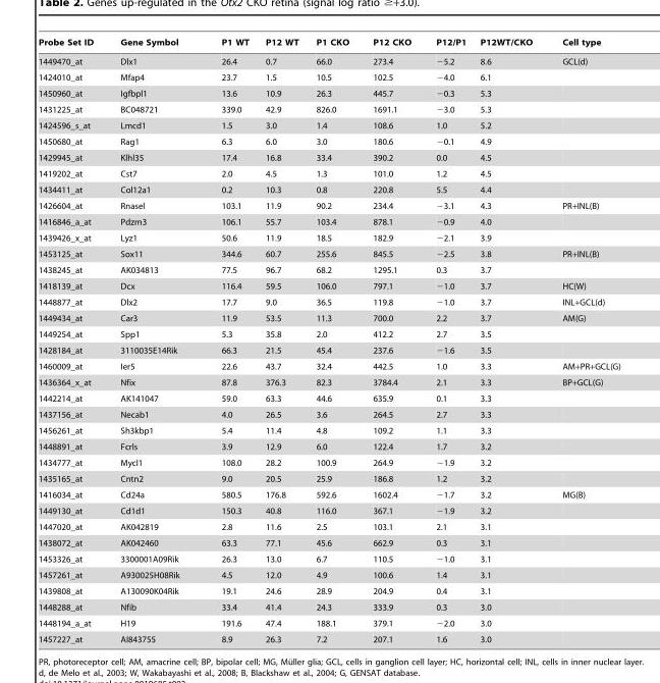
<table><thead><tr><td>Probe Set ID</td><td>Gene Symbol</td><td>P1 WT</td><td>P12 WT</td><td>P1 CKO</td><td>P12 CKO</td><td>P12/P1</td><td>P12WT/CKO</td><td>Cell type</td></tr></thead><tbody><tr><td>1449470_at</td><td>Dlx1</td><td>26.4</td><td>0.7</td><td>66.0</td><td>273.4</td><td>−5.2</td><td>8.6</td><td>GCL(d)</td></tr><tr><td>1424010_at</td><td>Mfap4</td><td>23.7</td><td>1.5</td><td>10.5</td><td>102.5</td><td>−4.0</td><td>6.1</td><td></td></tr><tr><td>1450960_at</td><td>Igfbpl1</td><td>13.6</td><td>10.9</td><td>26.3</td><td>445.7</td><td>−0.3</td><td>5.3</td><td></td></tr><tr><td>1431225_at</td><td>BC048721</td><td>339.0</td><td>42.9</td><td>826.0</td><td>1691.1</td><td>−3.0</td><td>5.3</td><td></td></tr><tr><td>1424596_s_at</td><td>Lmcd1</td><td>1.5</td><td>3.0</td><td>1.4</td><td>108.6</td><td>1.0</td><td>5.2</td><td></td></tr><tr><td>1450680_at</td><td>Rag1</td><td>6.3</td><td>6.0</td><td>3.0</td><td>180.6</td><td>−0.1</td><td>4.9</td><td></td></tr><tr><td>1429945_at</td><td>Klhl35</td><td>17.4</td><td>16.8</td><td>33.4</td><td>390.2</td><td>0.0</td><td>4.5</td><td></td></tr><tr><td>1419202_at</td><td>Cst7</td><td>2.0</td><td>4.5</td><td>1.3</td><td>101.0</td><td>1.2</td><td>4.5</td><td></td></tr><tr><td>1434411_at</td><td>Col12a1</td><td>0.2</td><td>10.3</td><td>0.8</td><td>220.8</td><td>5.5</td><td>4.4</td><td></td></tr><tr><td>1426604_at</td><td>Rnasel</td><td>103.1</td><td>11.9</td><td>90.2</td><td>234.4</td><td>−3.1</td><td>4.3</td><td>PR+INL(B)</td></tr><tr><td>1416846_a_at</td><td>Pdzrn3</td><td>106.1</td><td>55.7</td><td>103.4</td><td>878.1</td><td>−0.9</td><td>4.0</td><td></td></tr><tr><td>1439426_x_at</td><td>Lyz1</td><td>50.6</td><td>11.9</td><td>18.5</td><td>182.9</td><td>−2.1</td><td>3.9</td><td></td></tr><tr><td>1453125_at</td><td>Sox11</td><td>344.6</td><td>60.7</td><td>255.6</td><td>845.5</td><td>−2.5</td><td>3.8</td><td>PR+INL(B)</td></tr><tr><td>1438245_at</td><td>AK034813</td><td>77.5</td><td>96.7</td><td>68.2</td><td>1295.1</td><td>0.3</td><td>3.7</td><td></td></tr><tr><td>1418139_at</td><td>Dcx</td><td>116.4</td><td>59.5</td><td>106.0</td><td>797.1</td><td>−1.0</td><td>3.7</td><td>HC(W)</td></tr><tr><td>1448877_at</td><td>Dlx2</td><td>17.7</td><td>9.0</td><td>36.5</td><td>119.8</td><td>−1.0</td><td>3.7</td><td>INL+GCL(d)</td></tr><tr><td>1449434_at</td><td>Car3</td><td>11.9</td><td>53.5</td><td>11.3</td><td>700.0</td><td>2.2</td><td>3.7</td><td>AM(G)</td></tr><tr><td>1449254_at</td><td>Spp1</td><td>5.3</td><td>35.8</td><td>2.0</td><td>412.2</td><td>2.7</td><td>3.5</td><td></td></tr><tr><td>1428184_at</td><td>3110035E14Rik</td><td>66.3</td><td>21.5</td><td>45.4</td><td>237.6</td><td>−1.6</td><td>3.5</td><td></td></tr><tr><td>1460009_at</td><td>Ier5</td><td>22.6</td><td>43.7</td><td>32.4</td><td>442.5</td><td>1.0</td><td>3.3</td><td>AM+PR+GCL(G)</td></tr><tr><td>1436364_x_at</td><td>Nfix</td><td>87.8</td><td>376.3</td><td>82.3</td><td>3784.4</td><td>2.1</td><td>3.3</td><td>BP+GCL(G)</td></tr><tr><td>1442214_at</td><td>AK141047</td><td>59.0</td><td>63.3</td><td>44.6</td><td>635.9</td><td>0.1</td><td>3.3</td><td></td></tr><tr><td>1437156_at</td><td>Necab1</td><td>4.0</td><td>26.5</td><td>3.6</td><td>264.5</td><td>2.7</td><td>3.3</td><td></td></tr><tr><td>1456261_at</td><td>Sh3kbp1</td><td>5.4</td><td>11.4</td><td>4.8</td><td>109.2</td><td>1.1</td><td>3.3</td><td></td></tr><tr><td>1448891_at</td><td>Fcrls</td><td>3.9</td><td>12.9</td><td>6.0</td><td>122.4</td><td>1.7</td><td>3.2</td><td></td></tr><tr><td>1434777_at</td><td>Mycl1</td><td>108.0</td><td>28.2</td><td>100.9</td><td>264.9</td><td>−1.9</td><td>3.2</td><td></td></tr><tr><td>1435165_at</td><td>Cntn2</td><td>9.0</td><td>20.5</td><td>25.9</td><td>186.8</td><td>1.2</td><td>3.2</td><td></td></tr><tr><td>1416034_at</td><td>Cd24a</td><td>580.5</td><td>176.8</td><td>592.6</td><td>1602.4</td><td>−1.7</td><td>3.2</td><td>MG(B)</td></tr><tr><td>1449130_at</td><td>Cd1d1</td><td>150.3</td><td>40.8</td><td>116.0</td><td>367.1</td><td>−1.9</td><td>3.2</td><td></td></tr><tr><td>1447020_at</td><td>AK042819</td><td>2.8</td><td>11.6</td><td>2.5</td><td>103.1</td><td>2.1</td><td>3.1</td><td></td></tr><tr><td>1438072_at</td><td>AK042460</td><td>63.3</td><td>77.1</td><td>45.6</td><td>662.9</td><td>0.3</td><td>3.1</td><td></td></tr><tr><td>1453326_at</td><td>3300001A09Rik</td><td>26.3</td><td>13.0</td><td>6.7</td><td>110.5</td><td>−1.0</td><td>3.1</td><td></td></tr><tr><td>1457261_at</td><td>A930025H08Rik</td><td>4.5</td><td>12.0</td><td>4.9</td><td>100.6</td><td>1.4</td><td>3.1</td><td></td></tr><tr><td>1439808_at</td><td>A130090K04Rik</td><td>19.1</td><td>24.6</td><td>28.9</td><td>204.9</td><td>0.4</td><td>3.1</td><td></td></tr><tr><td>1448288_at</td><td>Nfib</td><td>33.4</td><td>41.4</td><td>24.3</td><td>333.9</td><td>0.3</td><td>3.0</td><td></td></tr><tr><td>1448194_a_at</td><td>H19</td><td>191.6</td><td>47.4</td><td>188.1</td><td>379.1</td><td>−2.0</td><td>3.0</td><td></td></tr><tr><td>1457227_at</td><td>AI843755</td><td>8.9</td><td>26.3</td><td>7.2</td><td>207.1</td><td>1.6</td><td>3.0</td><td></td></tr></tbody></table>